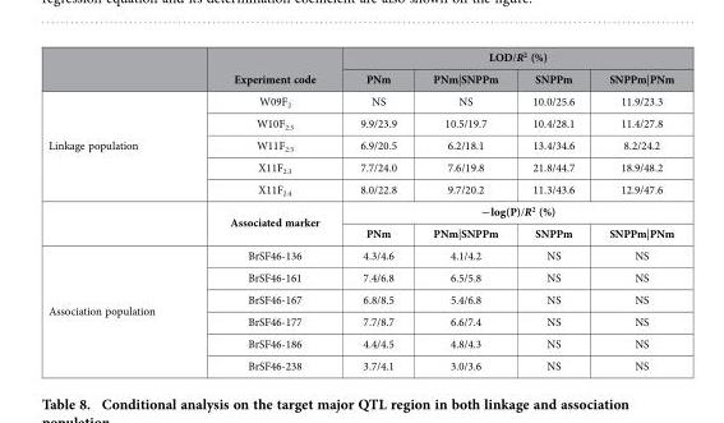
<table><thead><tr><td rowspan="2"></td><td rowspan="2">Experiment code</td><td colspan="4">LOD/R<sup>2</sup> (%)</td></tr><tr><td>PNm</td><td>PNm|SNPPm</td><td>SNPPm</td><td>SNPPm|PNm</td></tr></thead><tbody><tr><td rowspan="7">Linkage population</td><td>W09F<sub>2</sub></td><td>NS</td><td>NS</td><td>10.0/25.6</td><td>11.9/23.3</td></tr><tr><td>W10F<sub>2:3</sub></td><td>9.9/23.9</td><td>10.5/19.7</td><td>10.4/28.1</td><td>11.4/27.8</td></tr><tr><td>W11F<sub>2:3</sub></td><td>6.9/20.5</td><td>6.2/18.1</td><td>13.4/34.6</td><td>8.2/24.2</td></tr><tr><td>X11F<sub>2:3</sub></td><td>7.7/24.0</td><td>7.6/19.8</td><td>21.8/44.7</td><td>18.9/48.2</td></tr><tr><td>X11F<sub>2:4</sub></td><td>8.0/22.8</td><td>9.7/20.2</td><td>11.3/43.6</td><td>12.9/47.6</td></tr><tr><td rowspan="2">Associated marker</td><td colspan="4">−log(P)/R<sup>2</sup> (%)</td></tr><tr><td>PNm</td><td>PNm|SNPPm</td><td>SNPPm</td><td>SNPPm|PNm</td></tr><tr><td rowspan="6">Association population</td><td>BrSF46-136</td><td>4.3/4.6</td><td>4.1/4.2</td><td>NS</td><td>NS</td></tr><tr><td>BrSF46-161</td><td>7.4/6.8</td><td>6.5/5.8</td><td>NS</td><td>NS</td></tr><tr><td>BrSF46-167</td><td>6.8/8.5</td><td>5.4/6.8</td><td>NS</td><td>NS</td></tr><tr><td>BrSF46-177</td><td>7.7/8.7</td><td>6.6/7.4</td><td>NS</td><td>NS</td></tr><tr><td>BrSF46-186</td><td>4.4/4.5</td><td>4.8/4.3</td><td>NS</td><td>NS</td></tr><tr><td>BrSF46-238</td><td>3.7/4.1</td><td>3.0/3.6</td><td>NS</td><td>NS</td></tr></tbody></table>